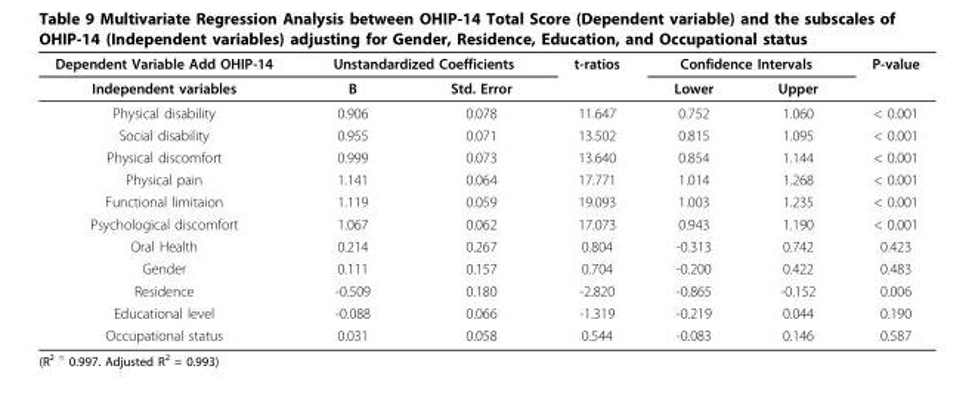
<table><thead><tr><td rowspan="2">Dependent Variable Add OHIP-14 Independent variables</td><td colspan="2">Unstandardized Coefficients</td><td rowspan="2">t-ratios</td><td colspan="2">Confidence Intervals</td><td rowspan="2">P-value</td></tr><tr><td>B</td><td>Std. Error</td><td>Lower</td><td>Upper</td></tr></thead><tbody><tr><td>Physical disability</td><td>0.906</td><td>0.078</td><td>11.647</td><td>0.752</td><td>1.060</td><td>&lt; 0.001</td></tr><tr><td>Social disability</td><td>0.955</td><td>0.071</td><td>13.502</td><td>0.815</td><td>1.095</td><td>&lt; 0.001</td></tr><tr><td>Physical discomfort</td><td>0.999</td><td>0.073</td><td>13.640</td><td>0.854</td><td>1.144</td><td>&lt; 0.001</td></tr><tr><td>Physical pain</td><td>1.141</td><td>0.064</td><td>17.771</td><td>1.014</td><td>1.268</td><td>&lt; 0.001</td></tr><tr><td>Functional limitaion</td><td>1.119</td><td>0.059</td><td>19.093</td><td>1.003</td><td>1.235</td><td>&lt; 0.001</td></tr><tr><td>Psychological discomfort</td><td>1.067</td><td>0.062</td><td>17.073</td><td>0.943</td><td>1.190</td><td>&lt; 0.001</td></tr><tr><td>Oral Health</td><td>0.214</td><td>0.267</td><td>0.804</td><td>-0.313</td><td>0.742</td><td>0.423</td></tr><tr><td>Gender</td><td>0.111</td><td>0.157</td><td>0.704</td><td>-0.200</td><td>0.422</td><td>0.483</td></tr><tr><td>Residence</td><td>-0.509</td><td>0.180</td><td>-2.820</td><td>-0.865</td><td>-0.152</td><td>0.006</td></tr><tr><td>Educational level</td><td>-0.088</td><td>0.066</td><td>-1.319</td><td>-0.219</td><td>0.044</td><td>0.190</td></tr><tr><td>Occupational status</td><td>0.031</td><td>0.058</td><td>0.544</td><td>-0.083</td><td>0.146</td><td>0.587</td></tr></tbody></table>